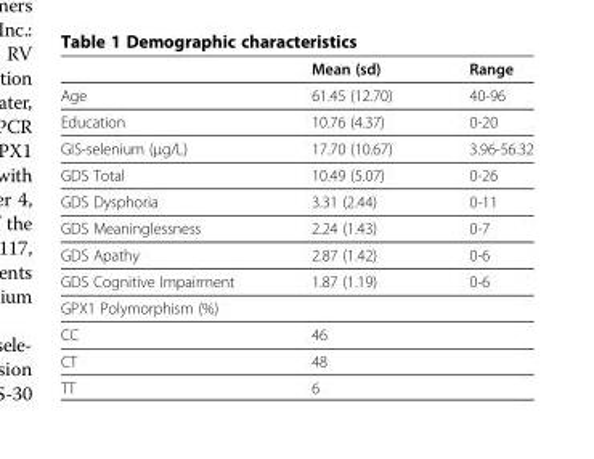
<table><thead><tr><td></td><td>Mean (sd)</td><td>Range</td></tr></thead><tbody><tr><td>Age</td><td>61.45 (12.70)</td><td>40-96</td></tr><tr><td>Education</td><td>10.76 (4.37)</td><td>0-20</td></tr><tr><td>GIS-selenium (μg/L)</td><td>17.70 (10.67)</td><td>3.96-56.32</td></tr><tr><td>GDS Total</td><td>10.49 (5.07)</td><td>0-26</td></tr><tr><td>GDS Dysphoria</td><td>3.31 (2.44)</td><td>0-11</td></tr><tr><td>GDS Meaninglessness</td><td>2.24 (1.43)</td><td>0-7</td></tr><tr><td>GDS Apathy</td><td>2.87 (1.42)</td><td>0-6</td></tr><tr><td>GDS Cognitive Impairment</td><td>1.87 (1.19)</td><td>0-6</td></tr><tr><td colspan="3">GPX1 Polymorphism (%)</td></tr><tr><td>CC</td><td>46</td><td></td></tr><tr><td>CT</td><td>48</td><td></td></tr><tr><td>TT</td><td>6</td><td></td></tr></tbody></table>